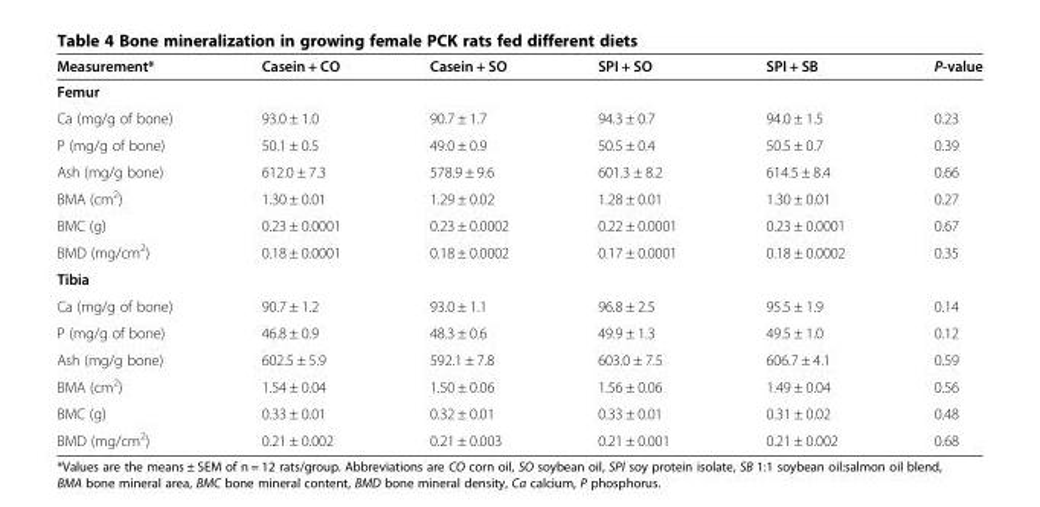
<table><thead><tr><td>Measurement*</td><td>Casein + CO</td><td>Casein + SO</td><td>SPI + SO</td><td>SPI + SB</td><td>P-value</td></tr></thead><tbody><tr><td colspan="6">Femur</td></tr><tr><td>Ca (mg/g of bone)</td><td>93.0 ± 1.0</td><td>90.7 ± 1.7</td><td>94.3 ± 0.7</td><td>94.0 ± 1.5</td><td>0.23</td></tr><tr><td>P (mg/g of bone)</td><td>50.1 ± 0.5</td><td>49.0 ± 0.9</td><td>50.5 ± 0.4</td><td>50.5 ± 0.7</td><td>0.39</td></tr><tr><td>Ash (mg/g bone)</td><td>612.0 ± 7.3</td><td>578.9 ± 9.6</td><td>601.3 ± 8.2</td><td>614.5 ± 8.4</td><td>0.66</td></tr><tr><td>BMA (cm<sup>2</sup>)</td><td>1.30 ± 0.01</td><td>1.29 ± 0.02</td><td>1.28 ± 0.01</td><td>1.30 ± 0.01</td><td>0.27</td></tr><tr><td>BMC (g)</td><td>0.23 ± 0.0001</td><td>0.23 ± 0.0002</td><td>0.22 ± 0.0001</td><td>0.23 ± 0.0001</td><td>0.67</td></tr><tr><td>BMD (mg/cm<sup>2</sup>)</td><td>0.18 ± 0.0001</td><td>0.18 ± 0.0002</td><td>0.17 ± 0.0001</td><td>0.18 ± 0.0002</td><td>0.35</td></tr><tr><td colspan="6">Tibia</td></tr><tr><td>Ca (mg/g of bone)</td><td>90.7 ± 1.2</td><td>93.0 ± 1.1</td><td>96.8 ± 2.5</td><td>95.5 ± 1.9</td><td>0.14</td></tr><tr><td>P (mg/g of bone)</td><td>46.8 ± 0.9</td><td>48.3 ± 0.6</td><td>49.9 ± 1.3</td><td>49.5 ± 1.0</td><td>0.12</td></tr><tr><td>Ash (mg/g bone)</td><td>602.5 ± 5.9</td><td>592.1 ± 7.8</td><td>603.0 ± 7.5</td><td>606.7 ± 4.1</td><td>0.59</td></tr><tr><td>BMA (cm<sup>2</sup>)</td><td>1.54 ± 0.04</td><td>1.50 ± 0.06</td><td>1.56 ± 0.06</td><td>1.49 ± 0.04</td><td>0.56</td></tr><tr><td>BMC (g)</td><td>0.33 ± 0.01</td><td>0.32 ± 0.01</td><td>0.33 ± 0.01</td><td>0.31 ± 0.02</td><td>0.48</td></tr><tr><td>BMD (mg/cm<sup>2</sup>)</td><td>0.21 ± 0.002</td><td>0.21 ± 0.003</td><td>0.21 ± 0.001</td><td>0.21 ± 0.002</td><td>0.68</td></tr></tbody></table>